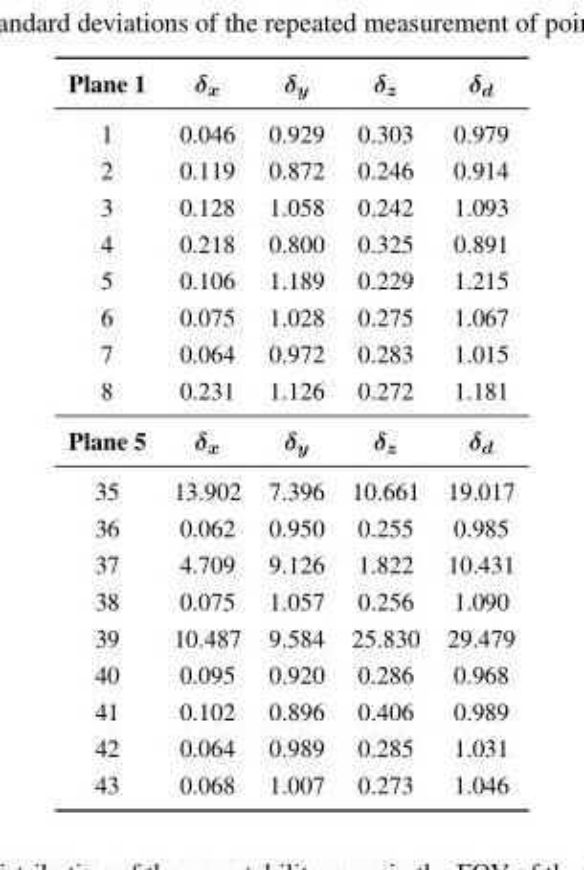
<table><tbody><tr><td>Plane 1</td><td>δ<sub>x</sub></td><td>δ<sub>y</sub></td><td>δ<sub>z</sub></td><td>δ<sub>d</sub></td></tr><tr><td>1</td><td>0.046</td><td>0.929</td><td>0.303</td><td>0.979</td></tr><tr><td>2</td><td>0.119</td><td>0.872</td><td>0.246</td><td>0.914</td></tr><tr><td>3</td><td>0.128</td><td>1.058</td><td>0.242</td><td>1.093</td></tr><tr><td>4</td><td>0.218</td><td>0.800</td><td>0.325</td><td>0.891</td></tr><tr><td>5</td><td>0.106</td><td>1.189</td><td>0.229</td><td>1.215</td></tr><tr><td>6</td><td>0.075</td><td>1.028</td><td>0.275</td><td>1.067</td></tr><tr><td>7</td><td>0.064</td><td>0.972</td><td>0.283</td><td>1.015</td></tr><tr><td>8</td><td>0.231</td><td>1.126</td><td>0.272</td><td>1.181</td></tr><tr><td>Plane 5</td><td>δ<sub>x</sub></td><td>δ<sub>y</sub></td><td>δ<sub>z</sub></td><td>δ<sub>d</sub></td></tr><tr><td>35</td><td>13.902</td><td>7.396</td><td>10.661</td><td>19.017</td></tr><tr><td>36</td><td>0.062</td><td>0.950</td><td>0.255</td><td>0.985</td></tr><tr><td>37</td><td>4.709</td><td>9.126</td><td>1.822</td><td>10.431</td></tr><tr><td>38</td><td>0.075</td><td>1.057</td><td>0.256</td><td>1.090</td></tr><tr><td>39</td><td>10.487</td><td>9.584</td><td>25.830</td><td>29.479</td></tr><tr><td>40</td><td>0.095</td><td>0.920</td><td>0.286</td><td>0.968</td></tr><tr><td>41</td><td>0.102</td><td>0.896</td><td>0.406</td><td>0.989</td></tr><tr><td>42</td><td>0.064</td><td>0.989</td><td>0.285</td><td>1.031</td></tr><tr><td>43</td><td>0.068</td><td>1.007</td><td>0.273</td><td>1.046</td></tr></tbody></table>